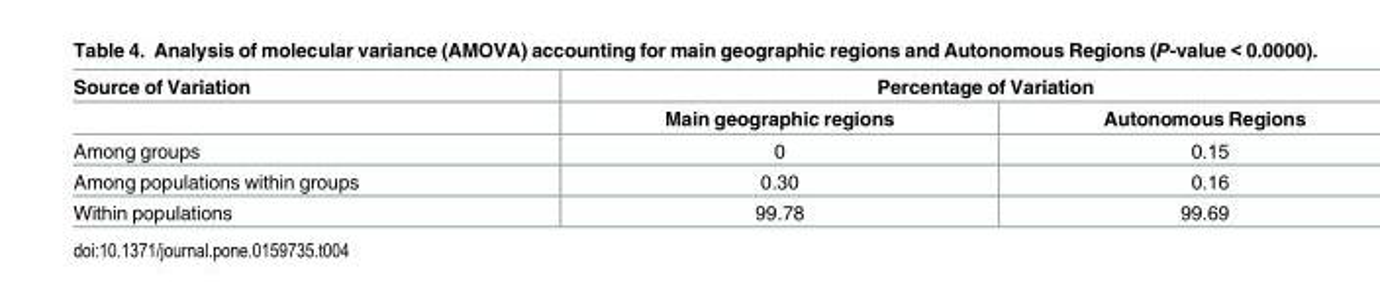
<table><thead><tr><td rowspan="2">Source of Variation</td><td colspan="2">Percentage of Variation</td></tr><tr><td>Main geographic regions</td><td>Autonomous Regions</td></tr></thead><tbody><tr><td>Among groups</td><td>0</td><td>0.15</td></tr><tr><td>Among populations within groups</td><td>0.30</td><td>0.16</td></tr><tr><td>Within populations</td><td>99.78</td><td>99.69</td></tr></tbody></table>